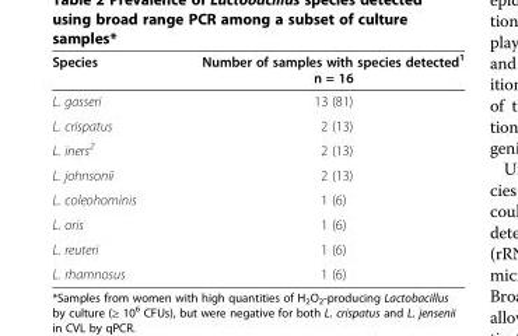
<table><thead><tr><td>Species</td><td>Number of samples with species detected<sup>1</sup> n = 16</td></tr></thead><tbody><tr><td>L. gasseri</td><td>13 (81)</td></tr><tr><td>L. crispatus</td><td>2 (13)</td></tr><tr><td>L. iners<sup>2</sup></td><td>2 (13)</td></tr><tr><td>L. johnsonii</td><td>2 (13)</td></tr><tr><td>L. coleohominis</td><td>1 (6)</td></tr><tr><td>L. oris</td><td>1 (6)</td></tr><tr><td>L. reuteri</td><td>1 (6)</td></tr><tr><td>L. rhamnosus</td><td>1 (6)</td></tr></tbody></table>